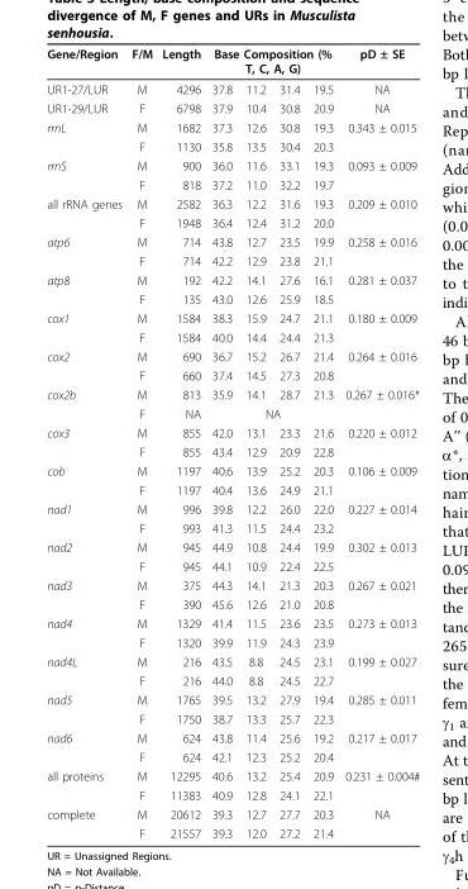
<table><thead><tr><td rowspan="2">Gene/Region UR1-27/LUR</td><td rowspan="2">F/M M</td><td rowspan="2">Length 4296</td><td colspan="4">Base Composition (% T, C, A, G)</td><td rowspan="2">pD ± SE NA</td></tr><tr><td>37.8</td><td>11.2</td><td>31.4</td><td>19.5</td></tr></thead><tbody><tr><td>UR1-29/LUR</td><td>F</td><td>6798</td><td>37.9</td><td>10.4</td><td>30.8</td><td>20.9</td><td>NA</td></tr><tr><td rowspan="2">rrnL</td><td>M</td><td>1682</td><td>37.3</td><td>12.6</td><td>30.8</td><td>19.3</td><td>0.343 ± 0.015</td></tr><tr><td>F</td><td>1130</td><td>35.8</td><td>13.5</td><td>30.4</td><td>20.3</td><td></td></tr><tr><td rowspan="2">rrnS</td><td>M</td><td>900</td><td>36.0</td><td>11.6</td><td>33.1</td><td>19.3</td><td>0.093 ± 0.009</td></tr><tr><td>F</td><td>818</td><td>37.2</td><td>11.0</td><td>32.2</td><td>19.7</td><td></td></tr><tr><td rowspan="2">all rRNA genes</td><td>M</td><td>2582</td><td>36.3</td><td>12.2</td><td>31.6</td><td>19.3</td><td>0.209 ± 0.010</td></tr><tr><td>F</td><td>1948</td><td>36.4</td><td>12.4</td><td>31.2</td><td>20.0</td><td></td></tr><tr><td rowspan="2">atp6</td><td>M</td><td>714</td><td>43.8</td><td>12.7</td><td>23.5</td><td>19.9</td><td>0.258 ± 0.016</td></tr><tr><td>F</td><td>714</td><td>42.2</td><td>12.9</td><td>23.8</td><td>21.1</td><td></td></tr><tr><td rowspan="2">atp8</td><td>M</td><td>192</td><td>42.2</td><td>14.1</td><td>27.6</td><td>16.1</td><td>0.281 ± 0.037</td></tr><tr><td>F</td><td>135</td><td>43.0</td><td>12.6</td><td>25.9</td><td>18.5</td><td></td></tr><tr><td rowspan="2">cox1</td><td>M</td><td>1584</td><td>38.3</td><td>15.9</td><td>24.7</td><td>21.1</td><td>0.180 ± 0.009</td></tr><tr><td>F</td><td>1584</td><td>40.0</td><td>14.4</td><td>24.4</td><td>21.3</td><td></td></tr><tr><td rowspan="2">cox2</td><td>M</td><td>690</td><td>36.7</td><td>15.2</td><td>26.7</td><td>21.4</td><td>0.264 ± 0.016</td></tr><tr><td>F</td><td>660</td><td>37.4</td><td>14.5</td><td>27.3</td><td>20.8</td><td></td></tr><tr><td rowspan="2">cox2b</td><td>M</td><td>813</td><td>35.9</td><td>14.1</td><td>28.7</td><td>21.3</td><td>0.267 ± 0.016*</td></tr><tr><td>F</td><td>NA</td><td colspan="4">NA</td><td></td></tr><tr><td rowspan="2">cox3</td><td>M</td><td>855</td><td>42.0</td><td>13.1</td><td>23.3</td><td>21.6</td><td>0.220 ± 0.012</td></tr><tr><td>F</td><td>855</td><td>43.4</td><td>12.9</td><td>20.9</td><td>22.8</td><td></td></tr><tr><td rowspan="2">cob</td><td>M</td><td>1197</td><td>40.6</td><td>13.9</td><td>25.2</td><td>20.3</td><td>0.106 ± 0.009</td></tr><tr><td>F</td><td>1197</td><td>40.4</td><td>13.6</td><td>24.9</td><td>21.1</td><td></td></tr><tr><td rowspan="2">nad1</td><td>M</td><td>996</td><td>39.8</td><td>12.2</td><td>26.0</td><td>22.0</td><td>0.227 ± 0.014</td></tr><tr><td>F</td><td>993</td><td>41.3</td><td>11.5</td><td>24.4</td><td>23.2</td><td></td></tr><tr><td rowspan="2">nad2</td><td>M</td><td>945</td><td>44.9</td><td>10.8</td><td>24.4</td><td>19.9</td><td>0.302 ± 0.013</td></tr><tr><td>F</td><td>945</td><td>44.1</td><td>10.9</td><td>22.4</td><td>22.5</td><td></td></tr><tr><td rowspan="2">nad3</td><td>M</td><td>375</td><td>44.3</td><td>14.1</td><td>21.3</td><td>20.3</td><td>0.267 ± 0.021</td></tr><tr><td>F</td><td>390</td><td>45.6</td><td>12.6</td><td>21.0</td><td>20.8</td><td></td></tr><tr><td rowspan="2">nad4</td><td>M</td><td>1329</td><td>41.4</td><td>11.5</td><td>23.6</td><td>23.5</td><td>0.273 ± 0.013</td></tr><tr><td>F</td><td>1320</td><td>39.9</td><td>11.9</td><td>24.3</td><td>23.9</td><td></td></tr><tr><td rowspan="2">nad4L</td><td>M</td><td>216</td><td>43.5</td><td>8.8</td><td>24.5</td><td>23.1</td><td>0.199 ± 0.027</td></tr><tr><td>F</td><td>216</td><td>44.0</td><td>8.8</td><td>24.5</td><td>22.7</td><td></td></tr><tr><td rowspan="2">nad5</td><td>M</td><td>1765</td><td>39.5</td><td>13.2</td><td>27.9</td><td>19.4</td><td>0.285 ± 0.011</td></tr><tr><td>F</td><td>1750</td><td>38.7</td><td>13.3</td><td>25.7</td><td>22.3</td><td></td></tr><tr><td rowspan="2">nad6</td><td>M</td><td>624</td><td>43.8</td><td>11.4</td><td>25.6</td><td>19.2</td><td>0.217 ± 0.017</td></tr><tr><td>F</td><td>624</td><td>42.1</td><td>12.3</td><td>25.2</td><td>20.4</td><td></td></tr><tr><td rowspan="2">all proteins</td><td>M</td><td>12295</td><td>40.6</td><td>13.2</td><td>25.4</td><td>20.9</td><td>0.231 ± 0.004#</td></tr><tr><td>F</td><td>11383</td><td>40.9</td><td>12.8</td><td>24.1</td><td>22.1</td><td></td></tr><tr><td rowspan="2">complete</td><td>M</td><td>20612</td><td>39.3</td><td>12.7</td><td>27.7</td><td>20.3</td><td>NA</td></tr><tr><td>F</td><td>21557</td><td>39.3</td><td>12.0</td><td>27.2</td><td>21.4</td><td></td></tr></tbody></table>